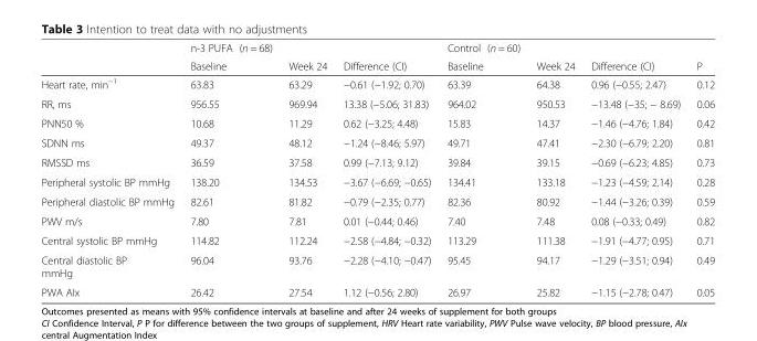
<table><thead><tr><td rowspan="2"></td><td rowspan="2">n-3 PUFA (n = 68) Baseline</td><td rowspan="2">Week 24</td><td rowspan="2">Difference (CI)</td><td rowspan="2">Control (n = 60) Baseline</td><td rowspan="2">Week 24</td><td rowspan="2">Difference (CI)</td><td rowspan="2">P</td></tr><tr></tr></thead><tbody><tr><td>Heart rate, min<sup>−1</sup></td><td>63.83</td><td>63.29</td><td>−0.61 (−1.92; 0.70)</td><td>63.39</td><td>64.38</td><td>0.96 (−0.55; 2.47)</td><td>0.12</td></tr><tr><td>RR, ms</td><td>956.55</td><td>969.94</td><td>13.38 (−5.06; 31.83)</td><td>964.02</td><td>950.53</td><td>−13.48 (−35; − 8.69)</td><td>0.06</td></tr><tr><td>PNN50 %</td><td>10.68</td><td>11.29</td><td>0.62 (−3.25; 4.48)</td><td>15.83</td><td>14.37</td><td>−1.46 (−4.76; 1.84)</td><td>0.42</td></tr><tr><td>SDNN ms</td><td>49.37</td><td>48.12</td><td>−1.24 (−8.46; 5.97)</td><td>49.71</td><td>47.41</td><td>−2.30 (−6.79; 2.20)</td><td>0.81</td></tr><tr><td>RMSSD ms</td><td>36.59</td><td>37.58</td><td>0.99 (−7.13; 9.12)</td><td>39.84</td><td>39.15</td><td>−0.69 (−6.23; 4.85)</td><td>0.73</td></tr><tr><td>Peripheral systolic BP mmHg</td><td>138.20</td><td>134.53</td><td>−3.67 (−6.69; −0.65)</td><td>134.41</td><td>133.18</td><td>−1.23 (−4.59; 2.14)</td><td>0.28</td></tr><tr><td>Peripheral diastolic BP mmHg</td><td>82.61</td><td>81.82</td><td>−0.79 (−2.35; 0.77)</td><td>82.36</td><td>80.92</td><td>−1.44 (−3.26; 0.39)</td><td>0.59</td></tr><tr><td>PWV m/s</td><td>7.80</td><td>7.81</td><td>0.01 (−0.44; 0.46)</td><td>7.40</td><td>7.48</td><td>0.08 (−0.33; 0.49)</td><td>0.82</td></tr><tr><td>Central systolic BP mmHg</td><td>114.82</td><td>112.24</td><td>−2.58 (−4.84; −0.32)</td><td>113.29</td><td>111.38</td><td>−1.91 (−4.77; 0.95)</td><td>0.71</td></tr><tr><td>Central diastolic BP mmHg</td><td>96.04</td><td>93.76</td><td>−2.28 (−4.10; −0.47)</td><td>95.45</td><td>94.17</td><td>−1.29 (−3.51; 0.94)</td><td>0.49</td></tr><tr><td>PWA AIx</td><td>26.42</td><td>27.54</td><td>1.12 (−0.56; 2.80)</td><td>26.97</td><td>25.82</td><td>−1.15 (−2.78; 0.47)</td><td>0.05</td></tr></tbody></table>